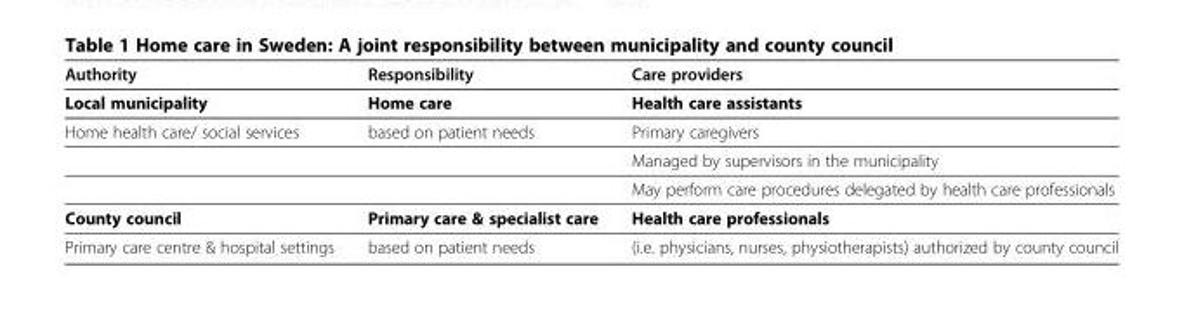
<table><thead><tr><td>Authority</td><td>Responsibility</td><td>Care providers</td></tr></thead><tbody><tr><td>Local municipality</td><td>Home care</td><td>Health care assistants</td></tr><tr><td rowspan="3">Home health care/ social services</td><td>based on patient needs</td><td>Primary caregivers</td></tr><tr><td></td><td>Managed by supervisors in the municipality</td></tr><tr><td></td><td>May perform care procedures delegated by health care professionals</td></tr><tr><td>County council</td><td>Primary care &amp; specialist care</td><td>Health care professionals</td></tr><tr><td>Primary care centre &amp; hospital settings</td><td>based on patient needs</td><td>(i.e. physicians, nurses, physiotherapists) authorized by county council</td></tr></tbody></table>